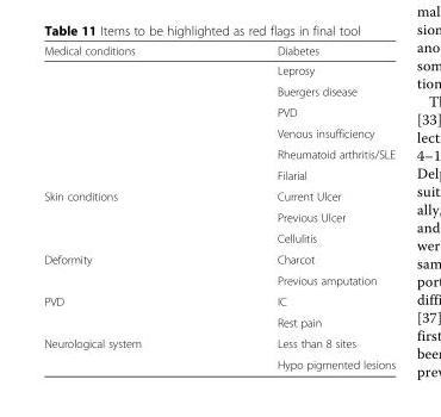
<table><thead><tr><td>Medical conditions</td><td>Diabetes</td></tr></thead><tbody><tr><td></td><td>Leprosy</td></tr><tr><td></td><td>Buergers disease</td></tr><tr><td></td><td>PVD</td></tr><tr><td></td><td>Venous insufficiency</td></tr><tr><td></td><td>Rheumatoid arthritis/SLE</td></tr><tr><td></td><td>Filarial</td></tr><tr><td rowspan="3">Skin conditions</td><td>Current Ulcer</td></tr><tr><td>Previous Ulcer</td></tr><tr><td>Cellulitis</td></tr><tr><td rowspan="2">Deformity</td><td>Charcot</td></tr><tr><td>Previous amputation</td></tr><tr><td rowspan="2">PVD</td><td>IC</td></tr><tr><td>Rest pain</td></tr><tr><td rowspan="2">Neurological system</td><td>Less than 8 sites</td></tr><tr><td>Hypo pigmented lesions</td></tr></tbody></table>